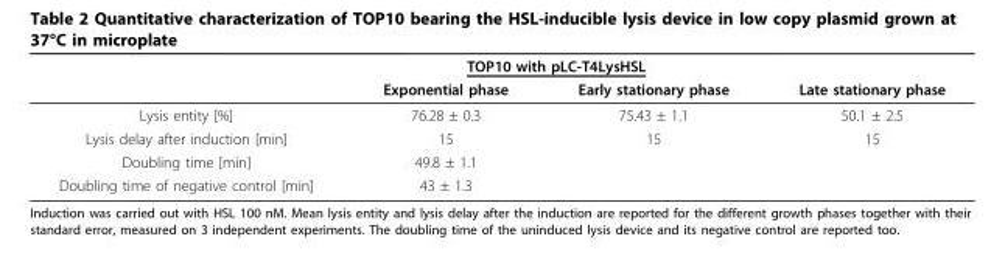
<table><thead><tr><td rowspan="2"></td><td colspan="2">TOP10 with pLC-T4LysHSL</td><td rowspan="2">Late stationary phase</td></tr><tr><td>Exponential phase</td><td>Early stationary phase</td></tr></thead><tbody><tr><td>Lysis entity [%]</td><td>76.28 ± 0.3</td><td>75.43 ± 1.1</td><td>50.1 ± 2.5</td></tr><tr><td>Lysis delay after induction [min]</td><td>15</td><td>15</td><td>15</td></tr><tr><td>Doubling time [min]</td><td>49.8 ± 1.1</td><td></td><td></td></tr><tr><td>Doubling time of negative control [min]</td><td>43 ± 1.3</td><td></td><td></td></tr></tbody></table>